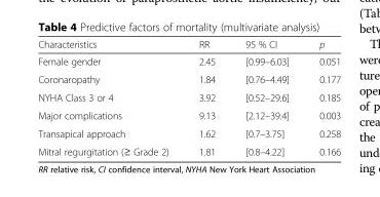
<table><thead><tr><td>Characteristics</td><td>RR</td><td>95 % CI</td><td>p</td></tr></thead><tbody><tr><td>Female gender</td><td>2.45</td><td>[0.99–6.03]</td><td>0.051</td></tr><tr><td>Coronaropathy</td><td>1.84</td><td>[0.76–4.49]</td><td>0.177</td></tr><tr><td>NYHA Class 3 or 4</td><td>3.92</td><td>[0.52–29.6]</td><td>0.185</td></tr><tr><td>Major complications</td><td>9.13</td><td>[2.12–39.4]</td><td>0.003</td></tr><tr><td>Transapical approach</td><td>1.62</td><td>[0.7–3.75]</td><td>0.258</td></tr><tr><td>Mitral regurgitation (≥ Grade 2)</td><td>1.81</td><td>[0.8–4.22]</td><td>0.166</td></tr></tbody></table>